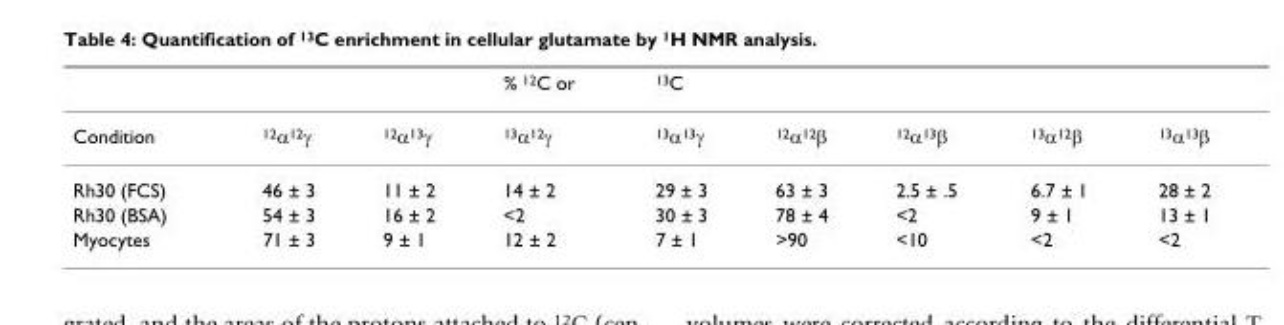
<table><thead><tr><td></td><td></td><td></td><td>% <sup>12</sup>C or</td><td><sup>13</sup>C</td><td></td><td></td><td></td><td></td></tr></thead><tbody><tr><td>Condition</td><td><sup>12</sup>α<sup>12</sup>γ</td><td><sup>12</sup>α<sup>13</sup>γ</td><td><sup>13</sup>α<sup>12</sup>γ</td><td><sup>13</sup>α<sup>13</sup>γ</td><td><sup>12</sup>α<sup>12</sup>β</td><td><sup>12</sup>α<sup>13</sup>β</td><td><sup>13</sup>α<sup>12</sup>β</td><td><sup>13</sup>α<sup>13</sup>β</td></tr><tr><td>Rh30 (FCS)</td><td>46 ± 3</td><td>11 ± 2</td><td>14 ± 2</td><td>29 ± 3</td><td>63 ± 3</td><td>2.5 ± .5</td><td>6.7 ± 1</td><td>28 ± 2</td></tr><tr><td>Rh30 (BSA)</td><td>54 ± 3</td><td>16 ± 2</td><td>&lt;2</td><td>30 ± 3</td><td>78 ± 4</td><td>&lt;2</td><td>9 ± 1</td><td>13 ± 1</td></tr><tr><td>Myocytes</td><td>71 ± 3</td><td>9 ± 1</td><td>12 ± 2</td><td>7 ± 1</td><td>&gt;90</td><td>&lt;10</td><td>&lt;2</td><td>&lt;2</td></tr></tbody></table>